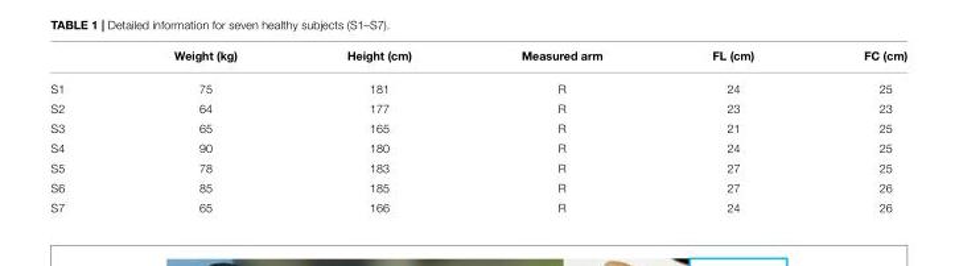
<table><thead><tr><td></td><td>Weight (kg)</td><td>Height (cm)</td><td>Measured arm</td><td>FL (cm)</td><td>FC (cm)</td></tr></thead><tbody><tr><td>S1</td><td>75</td><td>181</td><td>R</td><td>24</td><td>25</td></tr><tr><td>S2</td><td>64</td><td>177</td><td>R</td><td>23</td><td>23</td></tr><tr><td>S3</td><td>65</td><td>165</td><td>R</td><td>21</td><td>25</td></tr><tr><td>S4</td><td>90</td><td>180</td><td>R</td><td>24</td><td>25</td></tr><tr><td>S5</td><td>78</td><td>183</td><td>R</td><td>27</td><td>25</td></tr><tr><td>S6</td><td>85</td><td>185</td><td>R</td><td>27</td><td>26</td></tr><tr><td>S7</td><td>65</td><td>166</td><td>R</td><td>24</td><td>26</td></tr></tbody></table>